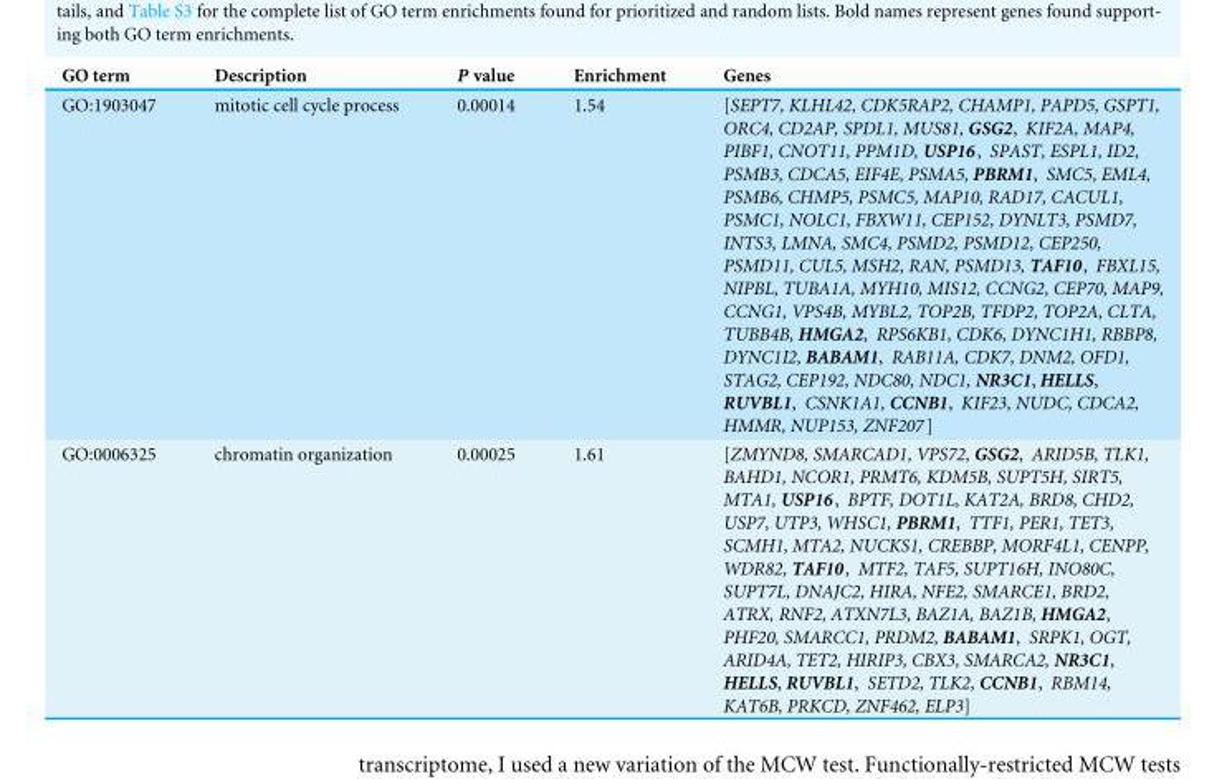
<table><thead><tr><td>GO term</td><td>Description</td><td>P value</td><td>Enrichment</td><td>Genes</td></tr></thead><tbody><tr><td>GO:1903047</td><td>mitotic cell cycle process</td><td>0.00014</td><td>1.54</td><td>[SEPT7, KLHL42, CDK5RAP2, CHAMP1, PAPD5, GSPT1, ORC4, CD2AP, SPDL1, MUS81, GSG2, KIF2A, MAP4, PIBF1, CNOT11, PPM1D, USP16, SPAST, ESPL1, ID2, PSMB3, CDCA5, EIF4E, PSMA5, PBRM1, SMC5, EML4, PSMB6, CHMP5, PSMC5, MAP10, RAD17, CACUL1, PSMC1, NOLC1, FBXW11, CEP152, DYNLT3, PSMD7, INTS3, LMNA, SMC4, PSMD2, PSMD12, CEP250, PSMD11, CUL5, MSH2, RAN, PSMD13, TAF10, FBXL15, NIPBL, TUBA1A, MYH10, MIS12, CCNG2, CEP70, MAP9, CCNG1, VPS4B, MYBL2, TOP2B, TFDP2, TOP2A, CLTA, TUBB4B, HMGA2, RPS6KB1, CDK6, DYNC1H1, RBBP8, DYNC1I2, BABAM1, RAB11A, CDK7, DNM2, OFD1, STAG2, CEP192, NDC80, NDC1, NR3C1, HELLS, RUVBL1, CSNK1A1, CCNB1, KIF23, NUDC, CDCA2, HMMR, NUP153, ZNF207]</td></tr><tr><td>GO:0006325</td><td>chromatin organization</td><td>0.00025</td><td>1.61</td><td>[ZMYND8, SMARCAD1, VPS72, GSG2, ARID5B, TLK1, BAHD1, NCOR1, PRMT6, KDM5B, SUPT5H, SIRT5, MTA1, USP16, BPTF, DOT1L, KAT2A, BRD8, CHD2, USP7, UTP3, WHSC1, PBRM1, TTF1, PER1, TET3, SCMH1, MTA2, NUCKS1, CREBBP, MORF4L1, CENPP, WDR82, TAF10, MTF2, TAF5, SUPT16H, INO80C, SUPT7L, DNAJC2, HIRA, NFE2, SMARCE1, BRD2, ATRX, RNF2, ATXN7L3, BAZ1A, BAZ1B, HMGA2, PHF20, SMARCC1, PRDM2, BABAM1, SRPK1, OGT, ARID4A, TET2, HIRIP3, CBX3, SMARCA2, NR3C1, HELLS, RUVBL1, SETD2, TLK2, CCNB1, RBM14, KAT6B, PRKCD, ZNF462, ELP3]</td></tr></tbody></table>